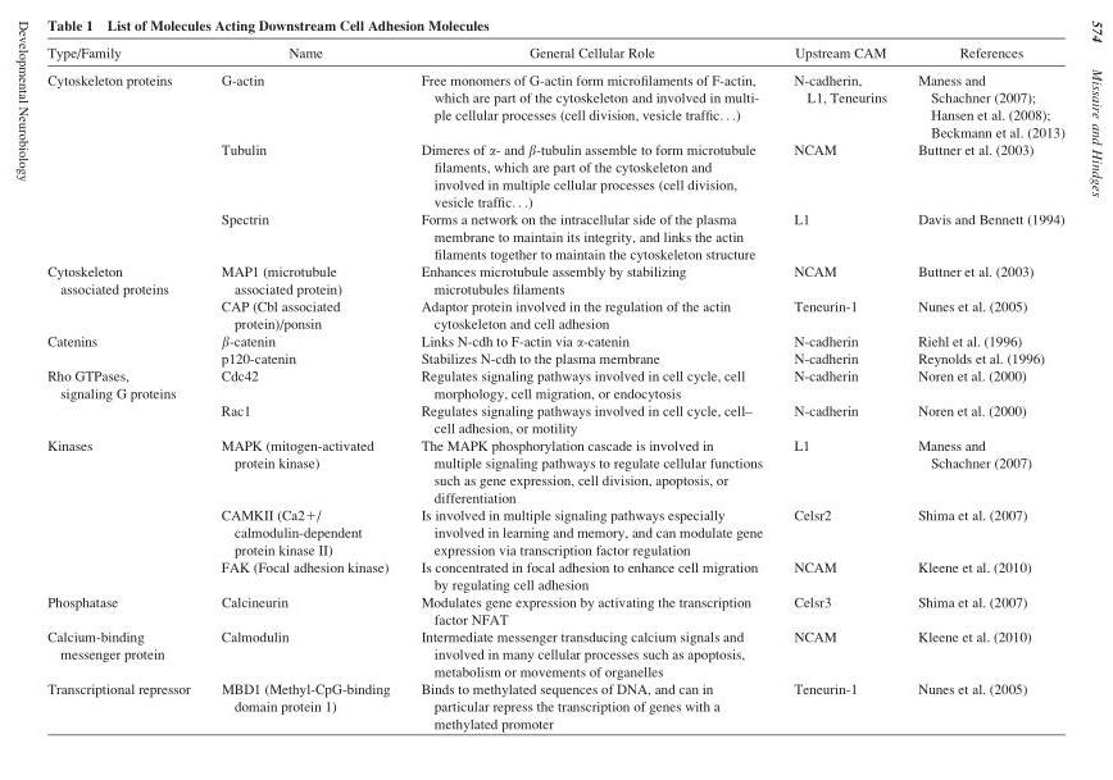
<table><thead><tr><td>Type/Family</td><td>Name</td><td>General Cellular Role</td><td>Upstream CAM</td><td>References</td></tr></thead><tbody><tr><td rowspan="3">Cytoskeleton proteins</td><td>G-actin</td><td>Free monomers of G-actin form microfilaments of F-actin, which are part of the cytoskeleton and involved in multi- ple cellular processes (cell division, vesicle traffic. . .)</td><td>N-cadherin, L1, Teneurins</td><td>Maness and Schachner (2007); Hansen et al. (2008); Beckmann et al. (2013)</td></tr><tr><td>Tubulin</td><td>Dimeres of a- and b-tubulin assemble to form microtubule filaments, which are part of the cytoskeleton and involved in multiple cellular processes (cell division, vesicle traffic. . .)</td><td>NCAM</td><td>Buttner et al. (2003)</td></tr><tr><td>Spectrin</td><td>Forms a network on the intracellular side of the plasma membrane to maintain its integrity, and links the actin filaments together to maintain the cytoskeleton structure</td><td>L1</td><td>Davis and Bennett (1994)</td></tr><tr><td rowspan="2">Cytoskeleton associated proteins</td><td>MAP1 (microtubule associated protein)</td><td>Enhances microtubule assembly by stabilizing microtubules filaments</td><td>NCAM</td><td>Buttner et al. (2003)</td></tr><tr><td>CAP (Cbl associated protein)/ponsin</td><td>Adaptor protein involved in the regulation of the actin cytoskeleton and cell adhesion</td><td>Teneurin-1</td><td>Nunes et al. (2005)</td></tr><tr><td rowspan="2">Catenins</td><td>β-catenin</td><td>Links N-cdh to F-actin via α-catenin</td><td>N-cadherin</td><td>Riehl et al. (1996)</td></tr><tr><td>p120-catenin</td><td>Stabilizes N-cdh to the plasma membrane</td><td>N-cadherin</td><td>Reynolds et al. (1996)</td></tr><tr><td rowspan="2">Rho GTPases, signaling G proteins</td><td>Cdc42</td><td>Regulates signaling pathways involved in cell cycle, cell morphology, cell migration, or endocytosis</td><td>N-cadherin</td><td>Noren et al. (2000)</td></tr><tr><td>Rac1</td><td>Regulates signaling pathways involved in cell cycle, cell– cell adhesion, or motility</td><td>N-cadherin</td><td>Noren et al. (2000)</td></tr><tr><td rowspan="3">Kinases</td><td>MAPK (mitogen-activated protein kinase)</td><td>The MAPK phosphorylation cascade is involved in multiple signaling pathways to regulate cellular functions such as gene expression, cell division, apoptosis, or differentiation</td><td>L1</td><td>Maness and Schachner (2007)</td></tr><tr><td>CAMKII (Ca2+/ calmodulin-dependent protein kinase II)</td><td>Is involved in multiple signaling pathways especially involved in learning and memory, and can modulate gene expression via transcription factor regulation</td><td>Celsr2</td><td>Shima et al. (2007)</td></tr><tr><td>FAK (Focal adhesion kinase)</td><td>Is concentrated in focal adhesion to enhance cell migration by regulating cell adhesion</td><td>NCAM</td><td>Kleene et al. (2010)</td></tr><tr><td>Phosphatase</td><td>Calcineurin</td><td>Modulates gene expression by activating the transcription factor NFAT</td><td>Celsr3</td><td>Shima et al. (2007)</td></tr><tr><td>Calcium-binding messenger protein</td><td>Calmodulin</td><td>Intermediate messenger transducing calcium signals and involved in many cellular processes such as apoptosis, metabolism or movements of organelles</td><td>NCAM</td><td>Kleene et al. (2010)</td></tr><tr><td>Transcriptional repressor</td><td>MBD1 (Methyl-CpG-binding domain protein 1)</td><td>Binds to methylated sequences of DNA, and can in particular repress the transcription of genes with a methylated promoter</td><td>Teneurin-1</td><td>Nunes et al. (2005)</td></tr></tbody></table>